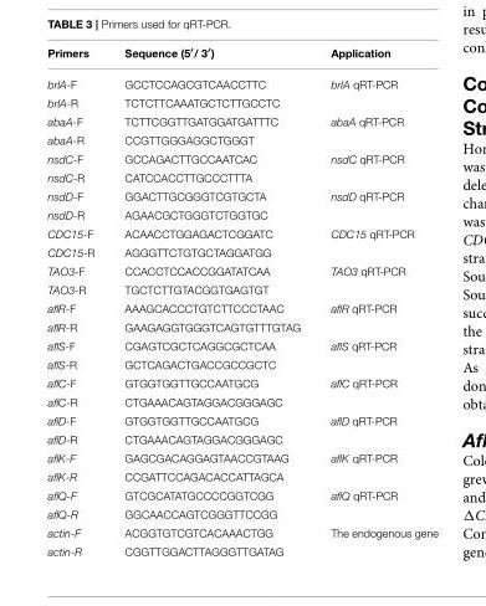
<table><thead><tr><td>Primers</td><td>Sequence (5′/ 3′)</td><td>Application</td></tr></thead><tbody><tr><td>brlA-F</td><td>GCCTCCAGCGTCAACCTTC</td><td>brlA qRT-PCR</td></tr><tr><td>brlA-R</td><td>TCTCTTCAAATGCTCTTGCCTC</td><td></td></tr><tr><td>abaA-F</td><td>TCTTCGGTTGATGGATGATTTC</td><td>abaA qRT-PCR</td></tr><tr><td>abaA-R</td><td>CCGTTGGGAGGCTGGGT</td><td></td></tr><tr><td>nsdC-F</td><td>GCCAGACTTGCCAATCAC</td><td>nsdC qRT-PCR</td></tr><tr><td>nsdC-R</td><td>CATCCACCTTGCCCTTTA</td><td></td></tr><tr><td>nsdD-F</td><td>GGACTTGCGGGTCGTGCTA</td><td>nsdD qRT-PCR</td></tr><tr><td>nsdD-R</td><td>AGAACGCTGGGTCTGGTGC</td><td></td></tr><tr><td>CDC15-F</td><td>ACAACCTGGAGACTCGGATC</td><td>CDC15 qRT-PCR</td></tr><tr><td>CDC15-R</td><td>AGGGTTCTGTGCTAGGATGG</td><td></td></tr><tr><td>TAO3-F</td><td>CCACCTCCACCGGATATCAA</td><td>TAO3 qRT-PCR</td></tr><tr><td>TAO3-R</td><td>TGCTCTTGTACGGTGAGTGT</td><td></td></tr><tr><td>aflR-F</td><td>AAAGCACCCTGTCTTCCCTAAC</td><td>aflR qRT-PCR</td></tr><tr><td>aflR-R</td><td>GAAGAGGTGGGTCAGTGTTTGTAG</td><td></td></tr><tr><td>aflS-F</td><td>CGAGTCGCTCAGGCGCTCAA</td><td>aflS qRT-PCR</td></tr><tr><td>aflS-R</td><td>GCTCAGACTGACCGCCGCTC</td><td></td></tr><tr><td>aflC-F</td><td>GTGGTGGTTGCCAATGCG</td><td>aflC qRT-PCR</td></tr><tr><td>aflC-R</td><td>CTGAAACAGTAGGACGGGAGC</td><td></td></tr><tr><td>aflD-F</td><td>GTGGTGGTTGCCAATGCG</td><td>aflD qRT-PCR</td></tr><tr><td>aflD-R</td><td>CTGAAACAGTAGGACGGGAGC</td><td></td></tr><tr><td>aflK-F</td><td>GAGCGACAGGAGTAACCGTAAG</td><td>aflK qRT-PCR</td></tr><tr><td>aflK-R</td><td>CCGATTCCAGACACCATTAGCA</td><td></td></tr><tr><td>aflQ-F</td><td>GTCGCATATGCCCCGGTCGG</td><td>aflQ qRT-PCR</td></tr><tr><td>aflQ-R</td><td>GGCAACCAGTCGGGTTCCGG</td><td></td></tr><tr><td>actin-F</td><td>ACGGTGTCGTCACAAACTGG</td><td>The endogenous gene</td></tr><tr><td>actin-R</td><td>CGGTTGGACTTAGGGTTGATAG</td><td></td></tr></tbody></table>